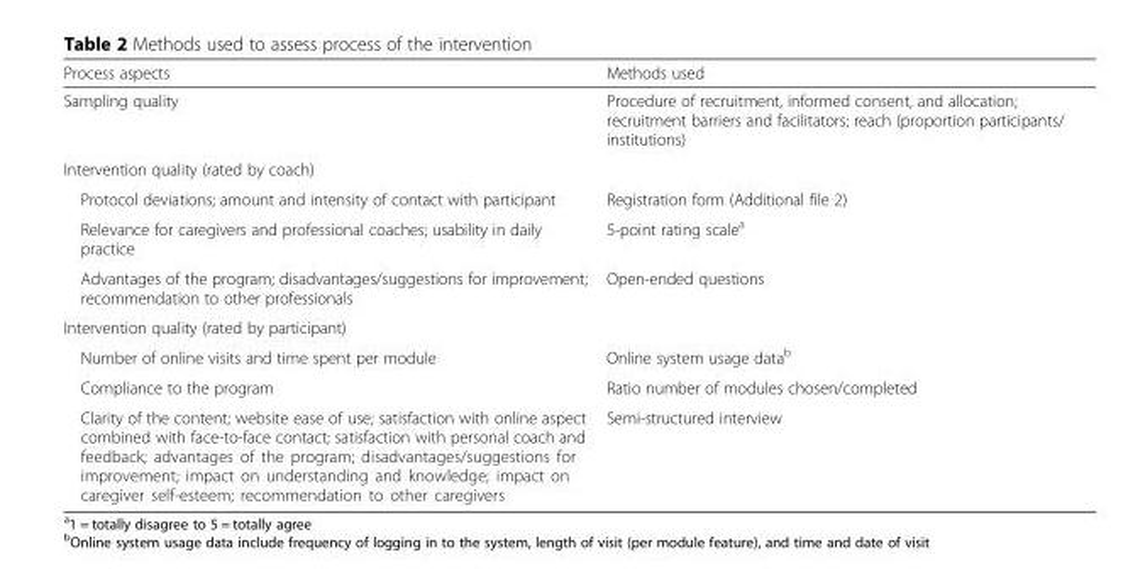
<table><thead><tr><td>Process aspects</td><td>Methods used</td></tr></thead><tbody><tr><td>Sampling quality</td><td>Procedure of recruitment, informed consent, and allocation; recruitment barriers and facilitators; reach (proportion participants/ institutions)</td></tr><tr><td colspan="2">Intervention quality (rated by coach)</td></tr><tr><td>Protocol deviations; amount and intensity of contact with participant</td><td>Registration form (Additional file 2)</td></tr><tr><td>Relevance for caregivers and professional coaches; usability in daily practice</td><td>5-point rating scale<sup>a</sup></td></tr><tr><td>Advantages of the program; disadvantages/suggestions for improvement; recommendation to other professionals</td><td>Open-ended questions</td></tr><tr><td colspan="2">Intervention quality (rated by participant)</td></tr><tr><td>Number of online visits and time spent per module</td><td>Online system usage data<sup>b</sup></td></tr><tr><td>Compliance to the program</td><td>Ratio number of modules chosen/completed</td></tr><tr><td>Clarity of the content; website ease of use; satisfaction with online aspect combined with face-to-face contact; satisfaction with personal coach and feedback; advantages of the program; disadvantages/suggestions for improvement; impact on understanding and knowledge; impact on caregiver self-esteem; recommendation to other caregivers</td><td>Semi-structured interview</td></tr></tbody></table>